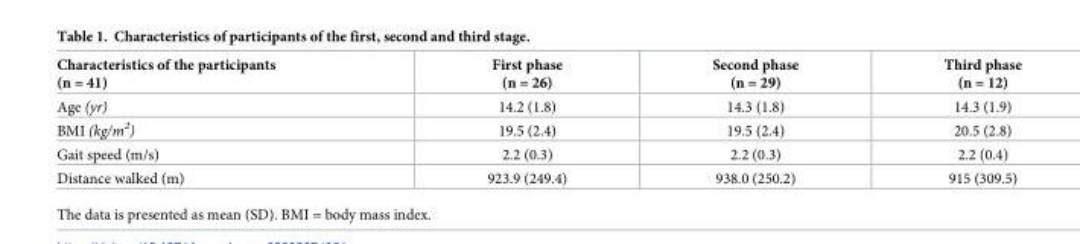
<table><thead><tr><td>Characteristics of the participants (n = 41)</td><td>First phase (n = 26)</td><td>Second phase (n = 29)</td><td>Third phase (n = 12)</td></tr></thead><tbody><tr><td>Age (yr)</td><td>14.2 (1.8)</td><td>14.3 (1.8)</td><td>14.3 (1.9)</td></tr><tr><td>BMI (kg/m<sup>2</sup>)</td><td>19.5 (2.4)</td><td>19.5 (2.4)</td><td>20.5 (2.8)</td></tr><tr><td>Gait speed (m/s)</td><td>2.2 (0.3)</td><td>2.2 (0.3)</td><td>2.2 (0.4)</td></tr><tr><td>Distance walked (m)</td><td>923.9 (249.4)</td><td>938.0 (250.2)</td><td>915 (309.5)</td></tr></tbody></table>